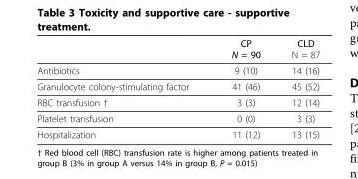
<table><thead><tr><td></td><td>CP N = 90</td><td>CLD N = 87</td></tr></thead><tbody><tr><td>Antibiotics</td><td>9 (10)</td><td>14 (16)</td></tr><tr><td>Granulocyte colony-stimulating factor</td><td>41 (46)</td><td>45 (52)</td></tr><tr><td>RBC transfusion †</td><td>3 (3)</td><td>12 (14)</td></tr><tr><td>Platelet transfusion</td><td>0 (0)</td><td>3 (3)</td></tr><tr><td>Hospitalization</td><td>11 (12)</td><td>13 (15)</td></tr></tbody></table>